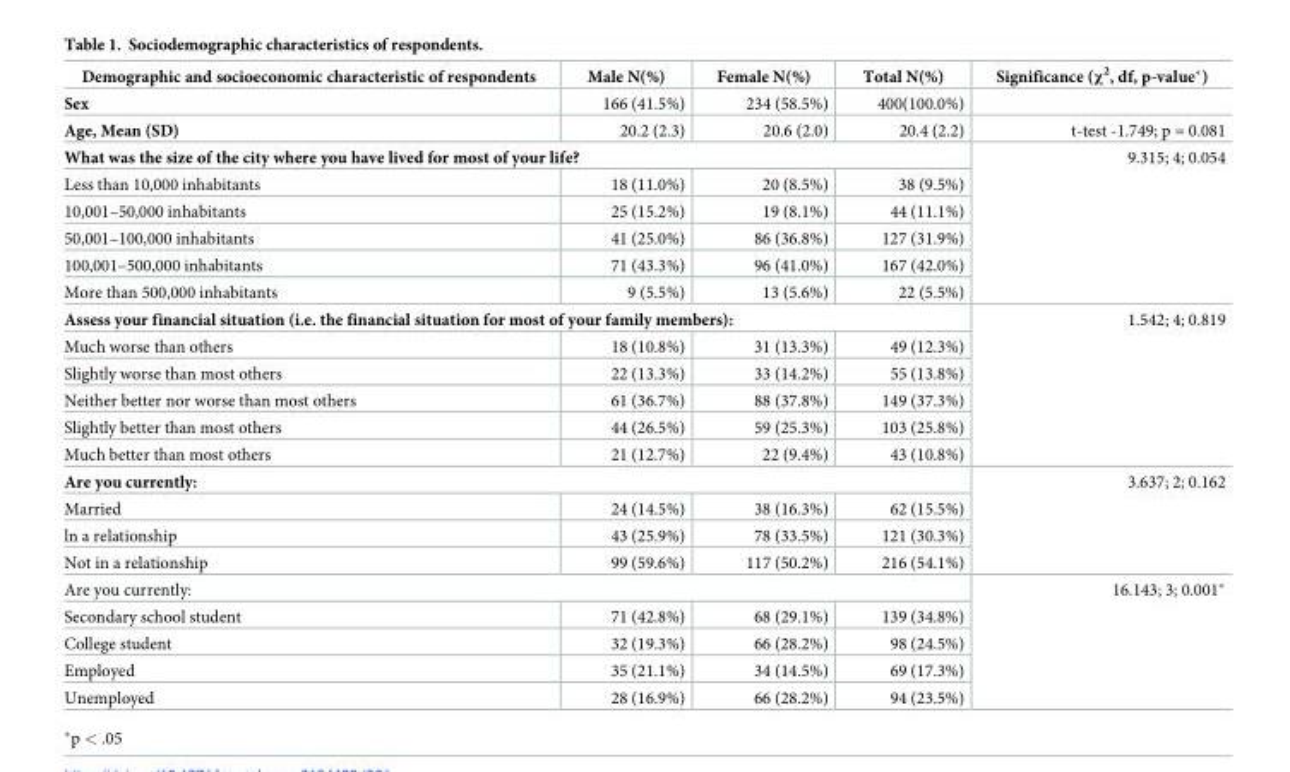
<table><thead><tr><td>Demographic and socioeconomic characteristic of respondents</td><td>Male N(%)</td><td>Female N(%)</td><td>Total N(%)</td><td>Significance (χ<sup>2</sup>, df, p-value*)</td></tr></thead><tbody><tr><td>Sex</td><td>166 (41.5%)</td><td>234 (58.5%)</td><td>400(100.0%)</td><td></td></tr><tr><td>Age, Mean (SD)</td><td>20.2 (2.3)</td><td>20.6 (2.0)</td><td>20.4 (2.2)</td><td>t-test -1.749; p = 0.081</td></tr><tr><td colspan="4">What was the size of the city where you have lived for most of your life?</td><td rowspan="6">9.315; 4; 0.054</td></tr><tr><td>Less than 10,000 inhabitants</td><td>18 (11.0%)</td><td>20 (8.5%)</td><td>38 (9.5%)</td></tr><tr><td>10,001–50,000 inhabitants</td><td>25 (15.2%)</td><td>19 (8.1%)</td><td>44 (11.1%)</td></tr><tr><td>50,001–100,000 inhabitants</td><td>41 (25.0%)</td><td>86 (36.8%)</td><td>127 (31.9%)</td></tr><tr><td>100,001–500,000 inhabitants</td><td>71 (43.3%)</td><td>96 (41.0%)</td><td>167 (42.0%)</td></tr><tr><td>More than 500,000 inhabitants</td><td>9 (5.5%)</td><td>13 (5.6%)</td><td>22 (5.5%)</td></tr><tr><td colspan="4">Assess your financial situation (i.e. the financial situation for most of your family members):</td><td rowspan="6">1.542; 4; 0.819</td></tr><tr><td>Much worse than others</td><td>18 (10.8%)</td><td>31 (13.3%)</td><td>49 (12.3%)</td></tr><tr><td>Slightly worse than most others</td><td>22 (13.3%)</td><td>33 (14.2%)</td><td>55 (13.8%)</td></tr><tr><td>Neither better nor worse than most others</td><td>61 (36.7%)</td><td>88 (37.8%)</td><td>149 (37.3%)</td></tr><tr><td>Slightly better than most others</td><td>44 (26.5%)</td><td>59 (25.3%)</td><td>103 (25.8%)</td></tr><tr><td>Much better than most others</td><td>21 (12.7%)</td><td>22 (9.4%)</td><td>43 (10.8%)</td></tr><tr><td colspan="4">Are you currently:</td><td rowspan="4">3.637; 2; 0.162</td></tr><tr><td>Married</td><td>24 (14.5%)</td><td>38 (16.3%)</td><td>62 (15.5%)</td></tr><tr><td>ln a relationship</td><td>43 (25.9%)</td><td>78 (33.5%)</td><td>121 (30.3%)</td></tr><tr><td>Not in a relationship</td><td>99 (59.6%)</td><td>117 (50.2%)</td><td>216 (54.1%)</td></tr><tr><td colspan="4">Are you currently:</td><td rowspan="5">16.143; 3; 0.001*</td></tr><tr><td>Secondary school student</td><td>71 (42.8%)</td><td>68 (29.1%)</td><td>139 (34.8%)</td></tr><tr><td>College student</td><td>32 (19.3%)</td><td>66 (28.2%)</td><td>98 (24.5%)</td></tr><tr><td>Employed</td><td>35 (21.1%)</td><td>34 (14.5%)</td><td>69 (17.3%)</td></tr><tr><td>Unemployed</td><td>28 (16.9%)</td><td>66 (28.2%)</td><td>94 (23.5%)</td></tr></tbody></table>